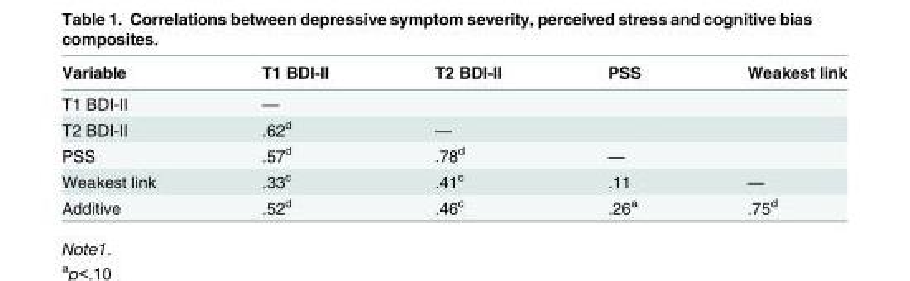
<table><thead><tr><td>Variable</td><td>T1 BDI-II</td><td>T2 BDI-II</td><td>PSS</td><td>Weakest link</td></tr></thead><tbody><tr><td>T1 BDI-II</td><td>—</td><td></td><td></td><td></td></tr><tr><td>T2 BDI-II</td><td>.62<sup>d</sup></td><td>—</td><td></td><td></td></tr><tr><td>PSS</td><td>.57<sup>d</sup></td><td>.78<sup>d</sup></td><td>—</td><td></td></tr><tr><td>Weakest link</td><td>.33<sup>c</sup></td><td>.41<sup>c</sup></td><td>.11</td><td>—</td></tr><tr><td>Additive</td><td>.52<sup>d</sup></td><td>.46<sup>c</sup></td><td>.26<sup>a</sup></td><td>.75<sup>d</sup></td></tr></tbody></table>